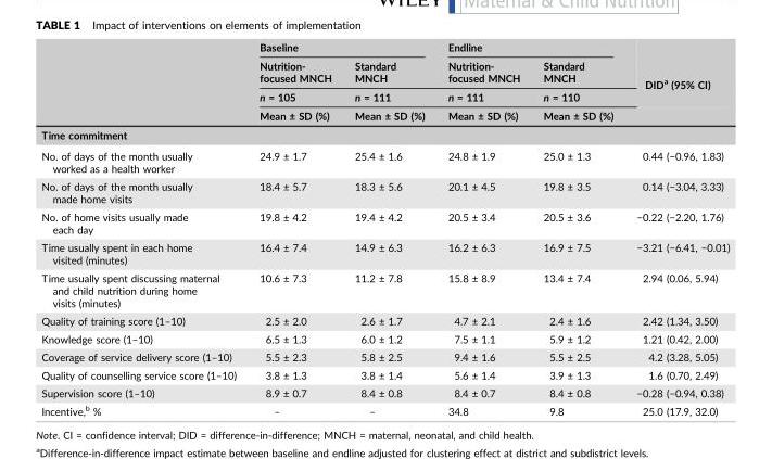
<table><thead><tr><td rowspan="4"></td><td colspan="2">Baseline</td><td colspan="2">Endline</td><td rowspan="4">DID<sup>a</sup> (95% CI)</td></tr><tr><td rowspan="3">Nutrition‐ focused MNCH n = 105 Mean ± SD (%)</td><td rowspan="3">Standard MNCH n = 111 Mean ± SD (%)</td><td rowspan="3">Nutrition‐ focused MNCH n = 111 Mean ± SD (%)</td><td rowspan="3">Standard MNCH n = 110 Mean ± SD (%)</td></tr><tr></tr><tr></tr><tr><td colspan="6">Time commitment</td></tr></thead><tbody><tr><td>No. of days of the month usually worked as a health worker</td><td>24.9 ± 1.7</td><td>25.4 ± 1.6</td><td>24.8 ± 1.9</td><td>25.0 ± 1.3</td><td>0.44 (−0.96, 1.83)</td></tr><tr><td>No. of days of the month usually made home visits</td><td>18.4 ± 5.7</td><td>18.3 ± 5.6</td><td>20.1 ± 4.5</td><td>19.8 ± 3.5</td><td>0.14 (−3.04, 3.33)</td></tr><tr><td>No. of home visits usually made each day</td><td>19.8 ± 4.2</td><td>19.4 ± 4.2</td><td>20.5 ± 3.4</td><td>20.5 ± 3.6</td><td>−0.22 (−2.20, 1.76)</td></tr><tr><td>Time usually spent in each home visited (minutes)</td><td>16.4 ± 7.4</td><td>14.9 ± 6.3</td><td>16.2 ± 6.3</td><td>16.9 ± 7.5</td><td>−3.21 (−6.41, −0.01)</td></tr><tr><td>Time usually spent discussing maternal and child nutrition during home visits (minutes)</td><td>10.6 ± 7.3</td><td>11.2 ± 7.8</td><td>15.8 ± 8.9</td><td>13.4 ± 7.4</td><td>2.94 (0.06, 5.94)</td></tr><tr><td>Quality of training score (1–10)</td><td>2.5 ± 2.0</td><td>2.6 ± 1.7</td><td>4.7 ± 2.1</td><td>2.4 ± 1.6</td><td>2.42 (1.34, 3.50)</td></tr><tr><td>Knowledge score (1–10)</td><td>6.5 ± 1.3</td><td>6.0 ± 1.2</td><td>7.5 ± 1.1</td><td>5.9 ± 1.2</td><td>1.21 (0.42, 2.00)</td></tr><tr><td>Coverage of service delivery score (1–10)</td><td>5.5 ± 2.3</td><td>5.8 ± 2.5</td><td>9.4 ± 1.6</td><td>5.5 ± 2.5</td><td>4.2 (3.28, 5.05)</td></tr><tr><td>Quality of counselling service score (1–10)</td><td>3.8 ± 1.3</td><td>3.8 ± 1.4</td><td>5.6 ± 1.4</td><td>3.9 ± 1.3</td><td>1.6 (0.70, 2.49)</td></tr><tr><td>Supervision score (1–10)</td><td>8.9 ± 0.7</td><td>8.4 ± 0.8</td><td>8.4 ± 0.7</td><td>8.4 ± 0.8</td><td>−0.28 (−0.94, 0.38)</td></tr><tr><td>Incentive,<sup>b</sup> %</td><td>–</td><td>–</td><td>34.8</td><td>9.8</td><td>25.0 (17.9, 32.0)</td></tr></tbody></table>